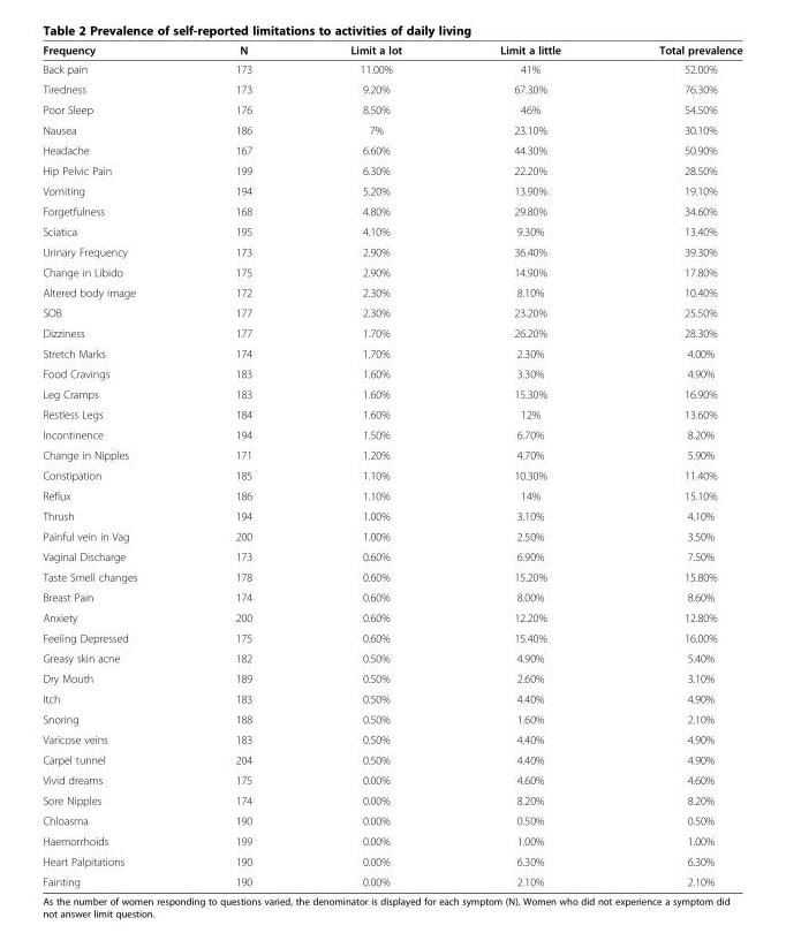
<table><thead><tr><td>Frequency</td><td>N</td><td>Limit a lot</td><td>Limit a little</td><td>Total prevalence</td></tr></thead><tbody><tr><td>Back pain</td><td>173</td><td>11.00%</td><td>41%</td><td>52.00%</td></tr><tr><td>Tiredness</td><td>173</td><td>9.20%</td><td>67.30%</td><td>76.30%</td></tr><tr><td>Poor Sleep</td><td>176</td><td>8.50%</td><td>46%</td><td>54.50%</td></tr><tr><td>Nausea</td><td>186</td><td>7%</td><td>23.10%</td><td>30.10%</td></tr><tr><td>Headache</td><td>167</td><td>6.60%</td><td>44.30%</td><td>50.90%</td></tr><tr><td>Hip Pelvic Pain</td><td>199</td><td>6.30%</td><td>22.20%</td><td>28.50%</td></tr><tr><td>Vomiting</td><td>194</td><td>5.20%</td><td>13.90%</td><td>19.10%</td></tr><tr><td>Forgetfulness</td><td>168</td><td>4.80%</td><td>29.80%</td><td>34.60%</td></tr><tr><td>Sciatica</td><td>195</td><td>4.10%</td><td>9.30%</td><td>13.40%</td></tr><tr><td>Urinary Frequency</td><td>173</td><td>2.90%</td><td>36.40%</td><td>39.30%</td></tr><tr><td>Change in Libido</td><td>175</td><td>2.90%</td><td>14.90%</td><td>17.80%</td></tr><tr><td>Altered body image</td><td>172</td><td>2.30%</td><td>8.10%</td><td>10.40%</td></tr><tr><td>SOB</td><td>177</td><td>2.30%</td><td>23.20%</td><td>25.50%</td></tr><tr><td>Dizziness</td><td>177</td><td>1.70%</td><td>26.20%</td><td>28.30%</td></tr><tr><td>Stretch Marks</td><td>174</td><td>1.70%</td><td>2.30%</td><td>4.00%</td></tr><tr><td>Food Cravings</td><td>183</td><td>1.60%</td><td>3.30%</td><td>4.90%</td></tr><tr><td>Leg Cramps</td><td>183</td><td>1.60%</td><td>15.30%</td><td>16.90%</td></tr><tr><td>Restless Legs</td><td>184</td><td>1.60%</td><td>12%</td><td>13.60%</td></tr><tr><td>Incontinence</td><td>194</td><td>1.50%</td><td>6.70%</td><td>8.20%</td></tr><tr><td>Change in Nipples</td><td>171</td><td>1.20%</td><td>4.70%</td><td>5.90%</td></tr><tr><td>Constipation</td><td>185</td><td>1.10%</td><td>10.30%</td><td>11.40%</td></tr><tr><td>Reflux</td><td>186</td><td>1.10%</td><td>14%</td><td>15.10%</td></tr><tr><td>Thrush</td><td>194</td><td>1.00%</td><td>3.10%</td><td>4.10%</td></tr><tr><td>Painful vein in Vag</td><td>200</td><td>1.00%</td><td>2.50%</td><td>3.50%</td></tr><tr><td>Vaginal Discharge</td><td>173</td><td>0.60%</td><td>6.90%</td><td>7.50%</td></tr><tr><td>Taste Smell changes</td><td>178</td><td>0.60%</td><td>15.20%</td><td>15.80%</td></tr><tr><td>Breast Pain</td><td>174</td><td>0.60%</td><td>8.00%</td><td>8.60%</td></tr><tr><td>Anxiety</td><td>200</td><td>0.60%</td><td>12.20%</td><td>12.80%</td></tr><tr><td>Feeling Depressed</td><td>175</td><td>0.60%</td><td>15.40%</td><td>16.00%</td></tr><tr><td>Greasy skin acne</td><td>182</td><td>0.50%</td><td>4.90%</td><td>5.40%</td></tr><tr><td>Dry Mouth</td><td>189</td><td>0.50%</td><td>2.60%</td><td>3.10%</td></tr><tr><td>Itch</td><td>183</td><td>0.50%</td><td>4.40%</td><td>4.90%</td></tr><tr><td>Snoring</td><td>188</td><td>0.50%</td><td>1.60%</td><td>2.10%</td></tr><tr><td>Varicose veins</td><td>183</td><td>0.50%</td><td>4.40%</td><td>4.90%</td></tr><tr><td>Carpel tunnel</td><td>204</td><td>0.50%</td><td>4.40%</td><td>4.90%</td></tr><tr><td>Vivid dreams</td><td>175</td><td>0.00%</td><td>4.60%</td><td>4.60%</td></tr><tr><td>Sore Nipples</td><td>174</td><td>0.00%</td><td>8.20%</td><td>8.20%</td></tr><tr><td>Chloasma</td><td>190</td><td>0.00%</td><td>0.50%</td><td>0.50%</td></tr><tr><td>Haemorrhoids</td><td>199</td><td>0.00%</td><td>1.00%</td><td>1.00%</td></tr><tr><td>Heart Palpitations</td><td>190</td><td>0.00%</td><td>6.30%</td><td>6.30%</td></tr><tr><td>Fainting</td><td>190</td><td>0.00%</td><td>2.10%</td><td>2.10%</td></tr></tbody></table>